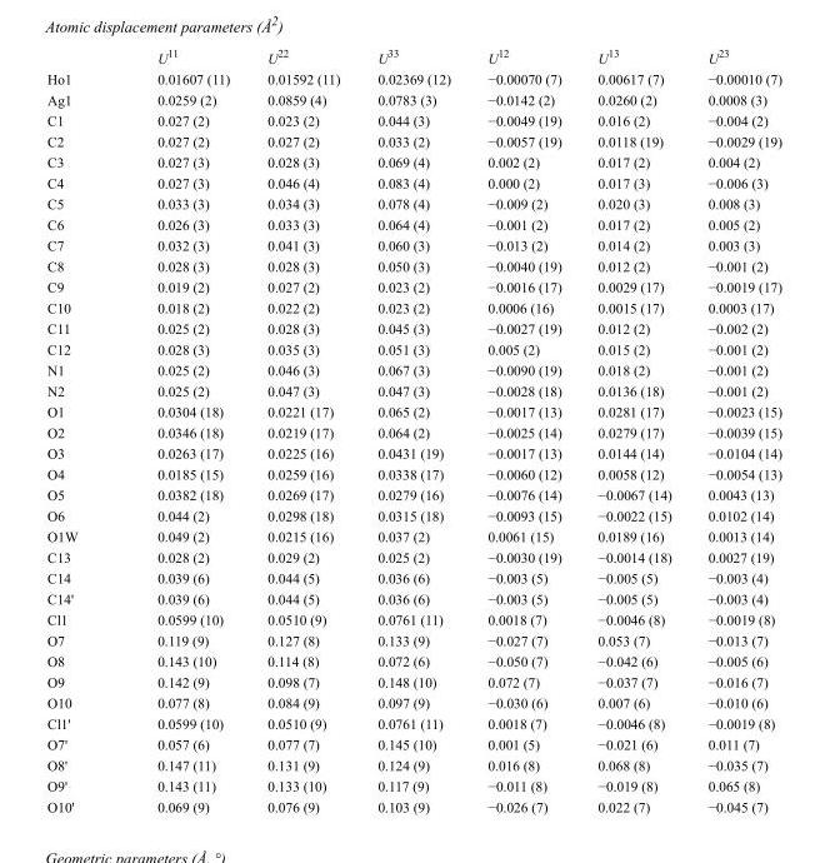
<table><thead><tr><td></td><td>U<sup>11</sup></td><td>U<sup>22</sup></td><td>U<sup>33</sup></td><td>U<sup>12</sup></td><td>U<sup>13</sup></td><td>U<sup>23</sup></td></tr></thead><tbody><tr><td>Ho1</td><td>0.01607 (11)</td><td>0.01592 (11)</td><td>0.02369 (12)</td><td>−0.00070 (7)</td><td>0.00617 (7)</td><td>−0.00010 (7)</td></tr><tr><td>Ag1</td><td>0.0259 (2)</td><td>0.0859 (4)</td><td>0.0783 (3)</td><td>−0.0142 (2)</td><td>0.0260 (2)</td><td>0.0008 (3)</td></tr><tr><td>C1</td><td>0.027 (2)</td><td>0.023 (2)</td><td>0.044 (3)</td><td>−0.0049 (19)</td><td>0.016 (2)</td><td>−0.004 (2)</td></tr><tr><td>C2</td><td>0.027 (2)</td><td>0.027 (2)</td><td>0.033 (2)</td><td>−0.0057 (19)</td><td>0.0118 (19)</td><td>−0.0029 (19)</td></tr><tr><td>C3</td><td>0.027 (3)</td><td>0.028 (3)</td><td>0.069 (4)</td><td>0.002 (2)</td><td>0.017 (2)</td><td>0.004 (2)</td></tr><tr><td>C4</td><td>0.027 (3)</td><td>0.046 (4)</td><td>0.083 (4)</td><td>0.000 (2)</td><td>0.017 (3)</td><td>−0.006 (3)</td></tr><tr><td>C5</td><td>0.033 (3)</td><td>0.034 (3)</td><td>0.078 (4)</td><td>−0.009 (2)</td><td>0.020 (3)</td><td>0.008 (3)</td></tr><tr><td>C6</td><td>0.026 (3)</td><td>0.033 (3)</td><td>0.064 (4)</td><td>−0.001 (2)</td><td>0.017 (2)</td><td>0.005 (2)</td></tr><tr><td>C7</td><td>0.032 (3)</td><td>0.041 (3)</td><td>0.060 (3)</td><td>−0.013 (2)</td><td>0.014 (2)</td><td>0.003 (3)</td></tr><tr><td>C8</td><td>0.028 (3)</td><td>0.028 (3)</td><td>0.050 (3)</td><td>−0.0040 (19)</td><td>0.012 (2)</td><td>−0.001 (2)</td></tr><tr><td>C9</td><td>0.019 (2)</td><td>0.027 (2)</td><td>0.023 (2)</td><td>−0.0016 (17)</td><td>0.0029 (17)</td><td>−0.0019 (17)</td></tr><tr><td>C10</td><td>0.018 (2)</td><td>0.022 (2)</td><td>0.023 (2)</td><td>0.0006 (16)</td><td>0.0015 (17)</td><td>0.0003 (17)</td></tr><tr><td>C11</td><td>0.025 (2)</td><td>0.028 (3)</td><td>0.045 (3)</td><td>−0.0027 (19)</td><td>0.012 (2)</td><td>−0.002 (2)</td></tr><tr><td>C12</td><td>0.028 (3)</td><td>0.035 (3)</td><td>0.051 (3)</td><td>0.005 (2)</td><td>0.015 (2)</td><td>−0.001 (2)</td></tr><tr><td>N1</td><td>0.025 (2)</td><td>0.046 (3)</td><td>0.067 (3)</td><td>−0.0090 (19)</td><td>0.018 (2)</td><td>−0.001 (2)</td></tr><tr><td>N2</td><td>0.025 (2)</td><td>0.047 (3)</td><td>0.047 (3)</td><td>−0.0028 (18)</td><td>0.0136 (18)</td><td>−0.001 (2)</td></tr><tr><td>O1</td><td>0.0304 (18)</td><td>0.0221 (17)</td><td>0.065 (2)</td><td>−0.0017 (13)</td><td>0.0281 (17)</td><td>−0.0023 (15)</td></tr><tr><td>O2</td><td>0.0346 (18)</td><td>0.0219 (17)</td><td>0.064 (2)</td><td>−0.0025 (14)</td><td>0.0279 (17)</td><td>−0.0039 (15)</td></tr><tr><td>O3</td><td>0.0263 (17)</td><td>0.0225 (16)</td><td>0.0431 (19)</td><td>−0.0017 (13)</td><td>0.0144 (14)</td><td>−0.0104 (14)</td></tr><tr><td>O4</td><td>0.0185 (15)</td><td>0.0259 (16)</td><td>0.0338 (17)</td><td>−0.0060 (12)</td><td>0.0058 (12)</td><td>−0.0054 (13)</td></tr><tr><td>O5</td><td>0.0382 (18)</td><td>0.0269 (17)</td><td>0.0279 (16)</td><td>−0.0076 (14)</td><td>−0.0067 (14)</td><td>0.0043 (13)</td></tr><tr><td>O6</td><td>0.044 (2)</td><td>0.0298 (18)</td><td>0.0315 (18)</td><td>−0.0093 (15)</td><td>−0.0022 (15)</td><td>0.0102 (14)</td></tr><tr><td>O1W</td><td>0.049 (2)</td><td>0.0215 (16)</td><td>0.037 (2)</td><td>0.0061 (15)</td><td>0.0189 (16)</td><td>0.0013 (14)</td></tr><tr><td>C13</td><td>0.028 (2)</td><td>0.029 (2)</td><td>0.025 (2)</td><td>−0.0030 (19)</td><td>−0.0014 (18)</td><td>0.0027 (19)</td></tr><tr><td>C14</td><td>0.039 (6)</td><td>0.044 (5)</td><td>0.036 (6)</td><td>−0.003 (5)</td><td>−0.005 (5)</td><td>−0.003 (4)</td></tr><tr><td>C14&#x27;</td><td>0.039 (6)</td><td>0.044 (5)</td><td>0.036 (6)</td><td>−0.003 (5)</td><td>−0.005 (5)</td><td>−0.003 (4)</td></tr><tr><td>Cl1</td><td>0.0599 (10)</td><td>0.0510 (9)</td><td>0.0761 (11)</td><td>0.0018 (7)</td><td>−0.0046 (8)</td><td>−0.0019 (8)</td></tr><tr><td>O7</td><td>0.119 (9)</td><td>0.127 (8)</td><td>0.133 (9)</td><td>−0.027 (7)</td><td>0.053 (7)</td><td>−0.013 (7)</td></tr><tr><td>O8</td><td>0.143 (10)</td><td>0.114 (8)</td><td>0.072 (6)</td><td>−0.050 (7)</td><td>−0.042 (6)</td><td>−0.005 (6)</td></tr><tr><td>O9</td><td>0.142 (9)</td><td>0.098 (7)</td><td>0.148 (10)</td><td>0.072 (7)</td><td>−0.037 (7)</td><td>−0.016 (7)</td></tr><tr><td>O10</td><td>0.077 (8)</td><td>0.084 (9)</td><td>0.097 (9)</td><td>−0.030 (6)</td><td>0.007 (6)</td><td>−0.010 (6)</td></tr><tr><td>Cl1&#x27;</td><td>0.0599 (10)</td><td>0.0510 (9)</td><td>0.0761 (11)</td><td>0.0018 (7)</td><td>−0.0046 (8)</td><td>−0.0019 (8)</td></tr><tr><td>O7&#x27;</td><td>0.057 (6)</td><td>0.077 (7)</td><td>0.145 (10)</td><td>0.001 (5)</td><td>−0.021 (6)</td><td>0.011 (7)</td></tr><tr><td>O8&#x27;</td><td>0.147 (11)</td><td>0.131 (9)</td><td>0.124 (9)</td><td>0.016 (8)</td><td>0.068 (8)</td><td>−0.035 (7)</td></tr><tr><td>O9&#x27;</td><td>0.143 (11)</td><td>0.133 (10)</td><td>0.117 (9)</td><td>−0.011 (8)</td><td>−0.019 (8)</td><td>0.065 (8)</td></tr><tr><td>O10&#x27;</td><td>0.069 (9)</td><td>0.076 (9)</td><td>0.103 (9)</td><td>−0.026 (7)</td><td>0.022 (7)</td><td>−0.045 (7)</td></tr></tbody></table>